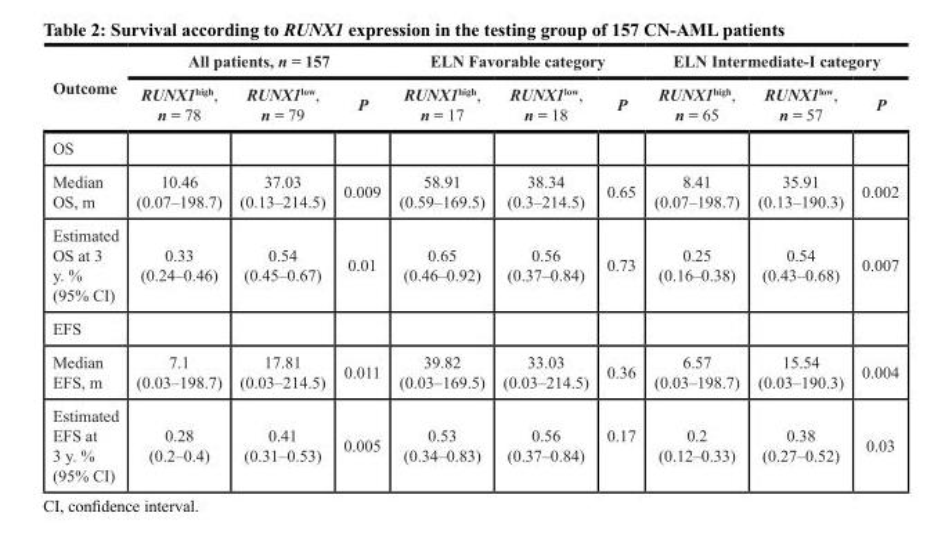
<table><thead><tr><td rowspan="2">Outcome</td><td colspan="3">All patients, n = 157</td><td colspan="3">ELN Favorable category</td><td colspan="3">ELN Intermediate-I category</td></tr><tr><td>RUNX1<sup>high</sup>, n = 78</td><td>RUNX1<sup>low</sup>, n = 79</td><td>P</td><td>RUNX1<sup>high</sup>, n = 17</td><td>RUNX1<sup>low</sup>, n = 18</td><td>P</td><td>RUNX1<sup>high</sup>, n = 65</td><td>RUNX1<sup>low</sup>, n = 57</td><td>P</td></tr></thead><tbody><tr><td colspan="10">OS</td></tr><tr><td>Median OS, m</td><td>10.46 (0.07–198.7)</td><td>37.03 (0.13–214.5)</td><td>0.009</td><td>58.91 (0.59–169.5)</td><td>38.34 (0.3–214.5)</td><td>0.65</td><td>8.41 (0.07–198.7)</td><td>35.91 (0.13–190.3)</td><td>0.002</td></tr><tr><td>Estimated OS at 3 y. % (95% CI)</td><td>0.33 (0.24–0.46)</td><td>0.54 (0.45–0.67)</td><td>0.01</td><td>0.65 (0.46–0.92)</td><td>0.56 (0.37–0.84)</td><td>0.73</td><td>0.25 (0.16–0.38)</td><td>0.54 (0.43–0.68)</td><td>0.007</td></tr><tr><td colspan="10">EFS</td></tr><tr><td>Median EFS, m</td><td>7.1 (0.03–198.7)</td><td>17.81 (0.03–214.5)</td><td>0.011</td><td>39.82 (0.03–169.5)</td><td>33.03 (0.03–214.5)</td><td>0.36</td><td>6.57 (0.03–198.7)</td><td>15.54 (0.03–190.3)</td><td>0.004</td></tr><tr><td>Estimated EFS at 3 y. % (95% CI)</td><td>0.28 (0.2–0.4)</td><td>0.41 (0.31–0.53)</td><td>0.005</td><td>0.53 (0.34–0.83)</td><td>0.56 (0.37–0.84)</td><td>0.17</td><td>0.2 (0.12–0.33)</td><td>0.38 (0.27–0.52)</td><td>0.03</td></tr></tbody></table>